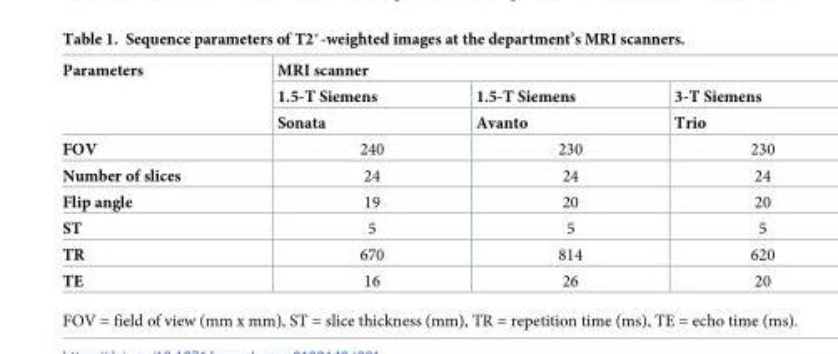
<table><thead><tr><td rowspan="3">Parameters</td><td colspan="3">MRI scanner</td></tr><tr><td rowspan="2">1.5-T Siemens Sonata</td><td rowspan="2">1.5-T Siemens Avanto</td><td rowspan="2">3-T Siemens Trio</td></tr><tr></tr></thead><tbody><tr><td>FOV</td><td>240</td><td>230</td><td>230</td></tr><tr><td>Number of slices</td><td>24</td><td>24</td><td>24</td></tr><tr><td>Flip angle</td><td>19</td><td>20</td><td>20</td></tr><tr><td>ST</td><td>5</td><td>5</td><td>5</td></tr><tr><td>TR</td><td>670</td><td>814</td><td>620</td></tr><tr><td>TE</td><td>16</td><td>26</td><td>20</td></tr></tbody></table>